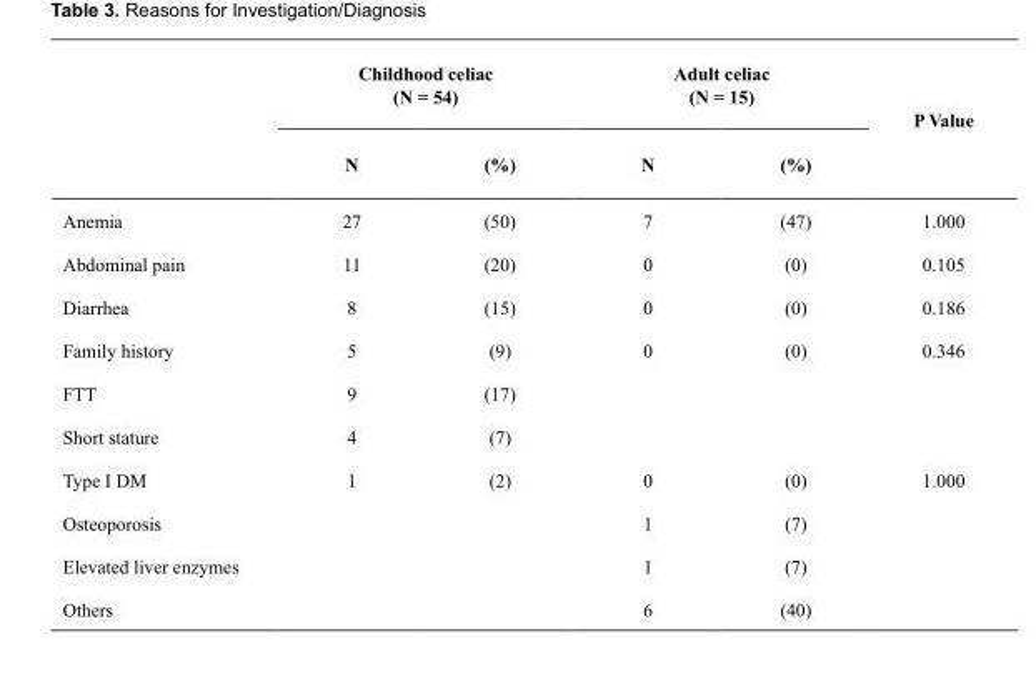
<table><thead><tr><td rowspan="2"></td><td colspan="2">Childhood celiac (N = 54)</td><td colspan="2">Adult celiac (N = 15)</td><td rowspan="2">P Value</td></tr><tr><td>N</td><td>(%)</td><td>N</td><td>(%)</td></tr></thead><tbody><tr><td>Anemia</td><td>27</td><td>(50)</td><td>7</td><td>(47)</td><td>1.000</td></tr><tr><td>Abdominal pain</td><td>11</td><td>(20)</td><td>0</td><td>(0)</td><td>0.105</td></tr><tr><td>Diarrhea</td><td>8</td><td>(15)</td><td>0</td><td>(0)</td><td>0.186</td></tr><tr><td>Family history</td><td>5</td><td>(9)</td><td>0</td><td>(0)</td><td>0.346</td></tr><tr><td>FTT</td><td>9</td><td>(17)</td><td></td><td></td><td></td></tr><tr><td>Short stature</td><td>4</td><td>(7)</td><td></td><td></td><td></td></tr><tr><td>Type I DM</td><td>1</td><td>(2)</td><td>0</td><td>(0)</td><td>1.000</td></tr><tr><td>Osteoporosis</td><td></td><td></td><td>1</td><td>(7)</td><td></td></tr><tr><td>Elevated liver enzymes</td><td></td><td></td><td>1</td><td>(7)</td><td></td></tr><tr><td>Others</td><td></td><td></td><td>6</td><td>(40)</td><td></td></tr></tbody></table>